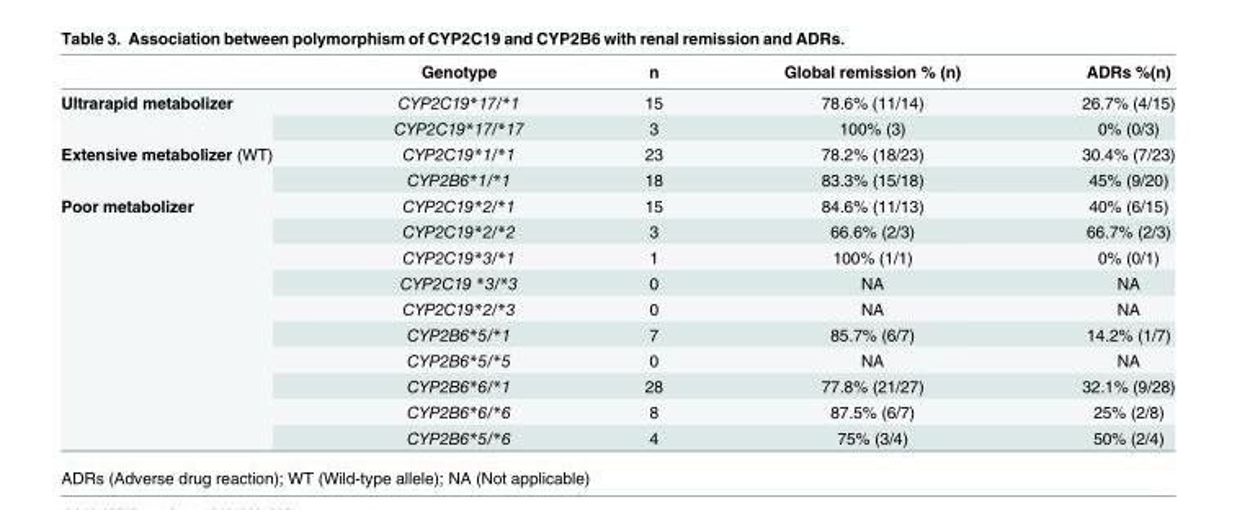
<table><thead><tr><td></td><td>Genotype</td><td>n</td><td>Global remission % (n)</td><td>ADRs %(n)</td></tr></thead><tbody><tr><td rowspan="2">Ultrarapid metabolizer</td><td>CYP2C19*17/*1</td><td>15</td><td>78.6% (11/14)</td><td>26.7% (4/15)</td></tr><tr><td>CYP2C19*17/*17</td><td>3</td><td>100% (3)</td><td>0% (0/3)</td></tr><tr><td rowspan="2">Extensive metabolizer (WT)</td><td>CYP2C19*1/*1</td><td>23</td><td>78.2% (18/23)</td><td>30.4% (7/23)</td></tr><tr><td>CYP2B6*1/*1</td><td>18</td><td>83.3% (15/18)</td><td>45% (9/20)</td></tr><tr><td rowspan="10">Poor metabolizer</td><td>CYP2C19*2/*1</td><td>15</td><td>84.6% (11/13)</td><td>40% (6/15)</td></tr><tr><td>CYP2C19*2/*2</td><td>3</td><td>66.6% (2/3)</td><td>66.7% (2/3)</td></tr><tr><td>CYP2C19*3/*1</td><td>1</td><td>100% (1/1)</td><td>0% (0/1)</td></tr><tr><td>CYP2C19 *3/*3</td><td>0</td><td>NA</td><td>NA</td></tr><tr><td>CYP2C19*2/*3</td><td>0</td><td>NA</td><td>NA</td></tr><tr><td>CYP2B6*5/*1</td><td>7</td><td>85.7% (6/7)</td><td>14.2% (1/7)</td></tr><tr><td>CYP2B6*5/*5</td><td>0</td><td>NA</td><td>NA</td></tr><tr><td>CYP2B6*6/*1</td><td>28</td><td>77.8% (21/27)</td><td>32.1% (9/28)</td></tr><tr><td>CYP2B6*6/*6</td><td>8</td><td>87.5% (6/7)</td><td>25% (2/8)</td></tr><tr><td>CYP2B6*5/*6</td><td>4</td><td>75% (3/4)</td><td>50% (2/4)</td></tr></tbody></table>